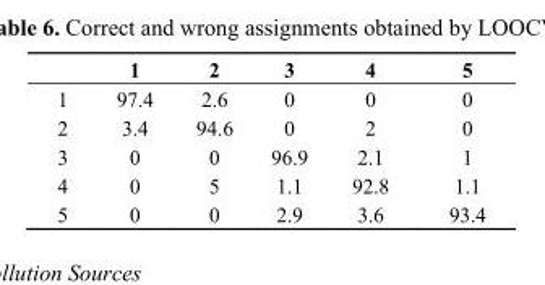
<table><thead><tr><td></td><td>1</td><td>2</td><td>3</td><td>4</td><td>5</td></tr></thead><tbody><tr><td>1</td><td>97.4</td><td>2.6</td><td>0</td><td>0</td><td>0</td></tr><tr><td>2</td><td>3.4</td><td>94.6</td><td>0</td><td>2</td><td>0</td></tr><tr><td>3</td><td>0</td><td>0</td><td>96.9</td><td>2.1</td><td>1</td></tr><tr><td>4</td><td>0</td><td>5</td><td>1.1</td><td>92.8</td><td>1.1</td></tr><tr><td>5</td><td>0</td><td>0</td><td>2.9</td><td>3.6</td><td>93.4</td></tr></tbody></table>